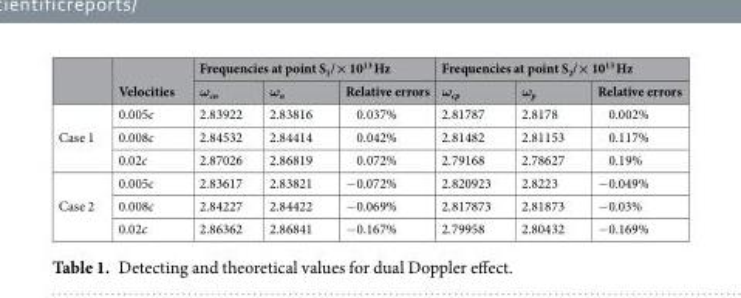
<table><thead><tr><td rowspan="2"></td><td rowspan="2">Velocities</td><td colspan="3">Frequencies at point S<sub>1</sub>/× 10<sup>13</sup> Hz</td><td colspan="3">Frequencies at point S<sub>2</sub>/× 10<sup>13</sup> Hz</td></tr><tr><td>ω<sub>cn</sub></td><td>ω<sub>n</sub></td><td>Relative errors</td><td>ω<sub>cp</sub></td><td>ω<sub>p</sub></td><td>Relative errors</td></tr></thead><tbody><tr><td rowspan="3">Case 1</td><td>0.005c</td><td>2.83922</td><td>2.83816</td><td>0.037%</td><td>2.81787</td><td>2.8178</td><td>0.002%</td></tr><tr><td>0.008c</td><td>2.84532</td><td>2.84414</td><td>0.042%</td><td>2.81482</td><td>2.81153</td><td>0.117%</td></tr><tr><td>0.02c</td><td>2.87026</td><td>2.86819</td><td>0.072%</td><td>2.79168</td><td>2.78627</td><td>0.19%</td></tr><tr><td rowspan="3">Case 2</td><td>0.005c</td><td>2.83617</td><td>2.83821</td><td>−0.072%</td><td>2.820923</td><td>2.8223</td><td>−0.049%</td></tr><tr><td>0.008c</td><td>2.84227</td><td>2.84422</td><td>−0.069%</td><td>2.817873</td><td>2.81873</td><td>−0.03%</td></tr><tr><td>0.02c</td><td>2.86362</td><td>2.86841</td><td>−0.167%</td><td>2.79958</td><td>2.80432</td><td>−0.169%</td></tr></tbody></table>